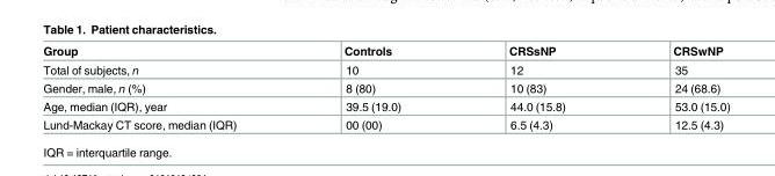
<table><thead><tr><td>Group</td><td>Controls</td><td>CRSsNP</td><td>CRSwNP</td></tr></thead><tbody><tr><td>Total of subjects, n</td><td>10</td><td>12</td><td>35</td></tr><tr><td>Gender, male, n (%)</td><td>8 (80)</td><td>10 (83)</td><td>24 (68.6)</td></tr><tr><td>Age, median (IQR), year</td><td>39.5 (19.0)</td><td>44.0 (15.8)</td><td>53.0 (15.0)</td></tr><tr><td>Lund-Mackay CT score, median (IQR)</td><td>00 (00)</td><td>6.5 (4.3)</td><td>12.5 (4.3)</td></tr></tbody></table>